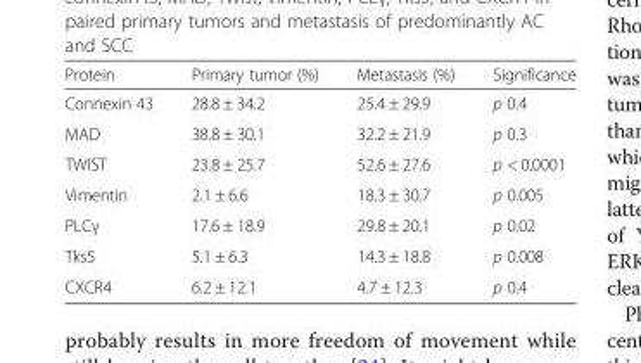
<table><thead><tr><td>Protein</td><td>Primary tumor (%)</td><td>Metastasis (%)</td><td>Significance</td></tr></thead><tbody><tr><td>Connexin 43</td><td>28.8 ± 34.2</td><td>25.4 ± 29.9</td><td>p 0.4</td></tr><tr><td>MAD</td><td>38.8 ± 30.1</td><td>32.2 ± 21.9</td><td>p 0.3</td></tr><tr><td>TWIST</td><td>23.8 ± 25.7</td><td>52.6 ± 27.6</td><td>p &lt; 0.0001</td></tr><tr><td>Vimentin</td><td>2.1 ± 6.6</td><td>18.3 ± 30.7</td><td>p 0.005</td></tr><tr><td>PLCγ</td><td>17.6 ± 18.9</td><td>29.8 ± 20.1</td><td>p 0.02</td></tr><tr><td>Tks5</td><td>5.1 ± 6.3</td><td>14.3 ± 18.8</td><td>p 0.008</td></tr><tr><td>CXCR4</td><td>6.2 ± 12.1</td><td>4.7 ± 12.3</td><td>p 0.4</td></tr></tbody></table>